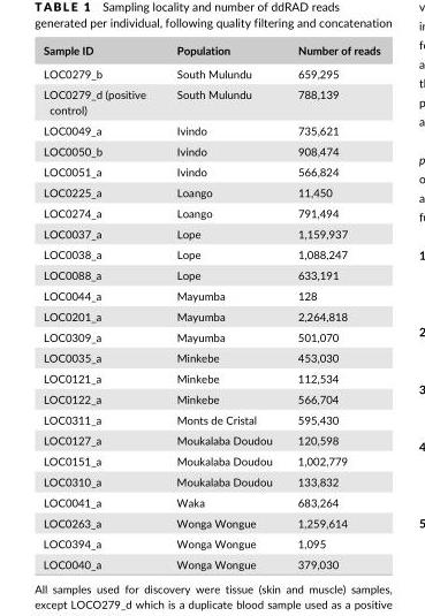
<table><thead><tr><td>Sample ID</td><td>Population</td><td>Number of reads</td></tr></thead><tbody><tr><td>LOC0279_b</td><td>South Mulundu</td><td>659,295</td></tr><tr><td>LOC0279_d (positive control)</td><td>South Mulundu</td><td>788,139</td></tr><tr><td>LOC0049_a</td><td>Ivindo</td><td>735,621</td></tr><tr><td>LOC0050_b</td><td>Ivindo</td><td>908,474</td></tr><tr><td>LOC0051_a</td><td>Ivindo</td><td>566,824</td></tr><tr><td>LOC0225_a</td><td>Loango</td><td>11,450</td></tr><tr><td>LOC0274_a</td><td>Loango</td><td>791,494</td></tr><tr><td>LOC0037_a</td><td>Lope</td><td>1,159,937</td></tr><tr><td>LOC0038_a</td><td>Lope</td><td>1,088,247</td></tr><tr><td>LOC0088_a</td><td>Lope</td><td>633,191</td></tr><tr><td>LOC0044_a</td><td>Mayumba</td><td>128</td></tr><tr><td>LOC0201_a</td><td>Mayumba</td><td>2,264,818</td></tr><tr><td>LOC0309_a</td><td>Mayumba</td><td>501,070</td></tr><tr><td>LOC0035_a</td><td>Minkebe</td><td>453,030</td></tr><tr><td>LOC0121_a</td><td>Minkebe</td><td>112,534</td></tr><tr><td>LOC0122_a</td><td>Minkebe</td><td>566,704</td></tr><tr><td>LOC0311_a</td><td>Monts de Cristal</td><td>595,430</td></tr><tr><td>LOC0127_a</td><td>Moukalaba Doudou</td><td>120,598</td></tr><tr><td>LOC0151_a</td><td>Moukalaba Doudou</td><td>1,002,779</td></tr><tr><td>LOC0310_a</td><td>Moukalaba Doudou</td><td>133,832</td></tr><tr><td>LOC0041_a</td><td>Waka</td><td>683,264</td></tr><tr><td>LOC0263_a</td><td>Wonga Wongue</td><td>1,259,614</td></tr><tr><td>LOC0394_a</td><td>Wonga Wongue</td><td>1,095</td></tr><tr><td>LOC0040_a</td><td>Wonga Wongue</td><td>379,030</td></tr></tbody></table>